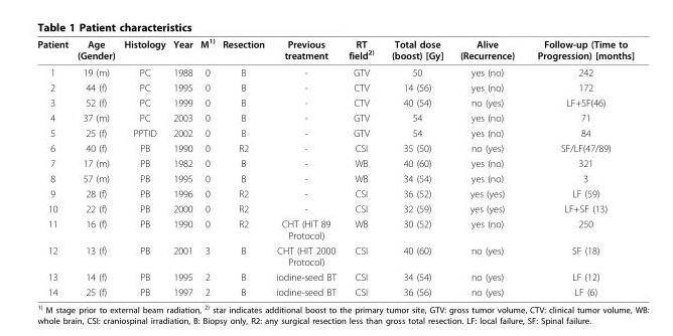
<table><thead><tr><td>Patient</td><td>Age (Gender)</td><td>Histology</td><td>Year</td><td>M<sup>1)</sup></td><td>Resection</td><td>Previous treatment</td><td>RT field<sup>2)</sup></td><td>Total dose (boost) [Gy]</td><td>Alive (Recurrence)</td><td>Follow-up (Time to Progression) [months]</td></tr></thead><tbody><tr><td>1</td><td>19 (m)</td><td>PC</td><td>1988</td><td>0</td><td>B</td><td>-</td><td>GTV</td><td>50</td><td>yes (no)</td><td>242</td></tr><tr><td>2</td><td>44 (f)</td><td>PC</td><td>1995</td><td>0</td><td>B</td><td>-</td><td>CTV</td><td>14 (56)</td><td>yes (no)</td><td>172</td></tr><tr><td>3</td><td>52 (f)</td><td>PC</td><td>1999</td><td>0</td><td>B</td><td>-</td><td>CTV</td><td>40 (54)</td><td>no (yes)</td><td>LF+SF(46)</td></tr><tr><td>4</td><td>37 (m)</td><td>PC</td><td>2003</td><td>0</td><td>B</td><td>-</td><td>GTV</td><td>54</td><td>yes (no)</td><td>71</td></tr><tr><td>5</td><td>25 (f)</td><td>PPTID</td><td>2002</td><td>0</td><td>B</td><td>-</td><td>GTV</td><td>54</td><td>yes (no)</td><td>84</td></tr><tr><td>6</td><td>40 (f)</td><td>PB</td><td>1990</td><td>0</td><td>R2</td><td>-</td><td>CSI</td><td>35 (50)</td><td>no (yes)</td><td>SF/LF(47/89)</td></tr><tr><td>7</td><td>17 (m)</td><td>PB</td><td>1982</td><td>0</td><td>B</td><td>-</td><td>WB</td><td>40 (60)</td><td>yes (no)</td><td>321</td></tr><tr><td>8</td><td>57 (m)</td><td>PB</td><td>1995</td><td>0</td><td>B</td><td>-</td><td>WB</td><td>34 (54)</td><td>yes (no)</td><td>3</td></tr><tr><td>9</td><td>28 (f)</td><td>PB</td><td>1996</td><td>0</td><td>R2</td><td>-</td><td>CSI</td><td>36 (52)</td><td>yes (yes)</td><td>LF (59)</td></tr><tr><td>10</td><td>22 (f)</td><td>PB</td><td>2000</td><td>0</td><td>R2</td><td>-</td><td>CSI</td><td>32 (59)</td><td>yes (yes)</td><td>LF+SF (13)</td></tr><tr><td>11</td><td>16 (f)</td><td>PB</td><td>1990</td><td>0</td><td>R2</td><td>CHT (HIT 89 Protocol)</td><td>WB</td><td>30 (52)</td><td>yes (no)</td><td>250</td></tr><tr><td>12</td><td>13 (f)</td><td>PB</td><td>2001</td><td>3</td><td>B</td><td>CHT (HIT 2000 Protocol)</td><td>CSI</td><td>40 (60)</td><td>no (yes)</td><td>SF (18)</td></tr><tr><td>13</td><td>14 (f)</td><td>PB</td><td>1995</td><td>2</td><td>B</td><td>iodine-seed BT</td><td>CSI</td><td>34 (54)</td><td>no (yes)</td><td>LF (12)</td></tr><tr><td>14</td><td>25 (f)</td><td>PB</td><td>1997</td><td>2</td><td>B</td><td>iodine-seed BT</td><td>CSI</td><td>36 (56)</td><td>no (yes)</td><td>LF (6)</td></tr></tbody></table>